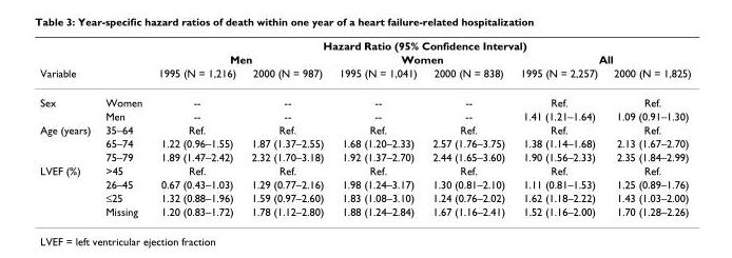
<table><thead><tr><td rowspan="3">Variable</td><td rowspan="3"></td><td colspan="6">Hazard Ratio (95% Confidence Interval)</td></tr><tr><td colspan="2">Men</td><td colspan="2">Women</td><td colspan="2">All</td></tr><tr><td>1995 (N = 1,216)</td><td>2000 (N = 987)</td><td>1995 (N = 1,041)</td><td>2000 (N = 838)</td><td>1995 (N = 2,257)</td><td>2000 (N = 1,825)</td></tr></thead><tbody><tr><td rowspan="2">Sex</td><td>Women</td><td>--</td><td>--</td><td>--</td><td>--</td><td>Ref.</td><td>Ref.</td></tr><tr><td>Men</td><td>--</td><td>--</td><td>--</td><td>--</td><td>1.41 (1.21–1.64)</td><td>1.09 (0.91–1.30)</td></tr><tr><td rowspan="3">Age (years)</td><td>35–64</td><td>Ref.</td><td>Ref.</td><td>Ref.</td><td>Ref.</td><td>Ref.</td><td>Ref.</td></tr><tr><td>65–74</td><td>1.22 (0.96–1.55)</td><td>1.87 (1.37–2.55)</td><td>1.68 (1.20–2.33)</td><td>2.57 (1.76–3.75)</td><td>1.38 (1.14–1.68)</td><td>2.13 (1.67–2.70)</td></tr><tr><td>75–79</td><td>1.89 (1.47–2.42)</td><td>2.32 (1.70–3.18)</td><td>1.92 (1.37–2.70)</td><td>2.44 (1.65–3.60)</td><td>1.90 (1.56–2.33)</td><td>2.35 (1.84–2.99)</td></tr><tr><td rowspan="4">LVEF (%)</td><td>&gt;45</td><td>Ref.</td><td>Ref.</td><td>Ref.</td><td>Ref.</td><td>Ref.</td><td>Ref.</td></tr><tr><td>26–45</td><td>0.67 (0.43–1.03)</td><td>1.29 (0.77–2.16)</td><td>1.98 (1.24–3.17)</td><td>1.30 (0.81–2.10)</td><td>1.11 (0.81–1.53)</td><td>1.25 (0.89–1.76)</td></tr><tr><td>≤25</td><td>1.32 (0.88–1.96)</td><td>1.59 (0.97–2.60)</td><td>1.83 (1.08–3.10)</td><td>1.24 (0.76–2.02)</td><td>1.62 (1.18–2.22)</td><td>1.43 (1.03–2.00)</td></tr><tr><td>Missing</td><td>1.20 (0.83–1.72)</td><td>1.78 (1.12–2.80)</td><td>1.88 (1.24–2.84)</td><td>1.67 (1.16–2.41)</td><td>1.52 (1.16–2.00)</td><td>1.70 (1.28–2.26)</td></tr></tbody></table>